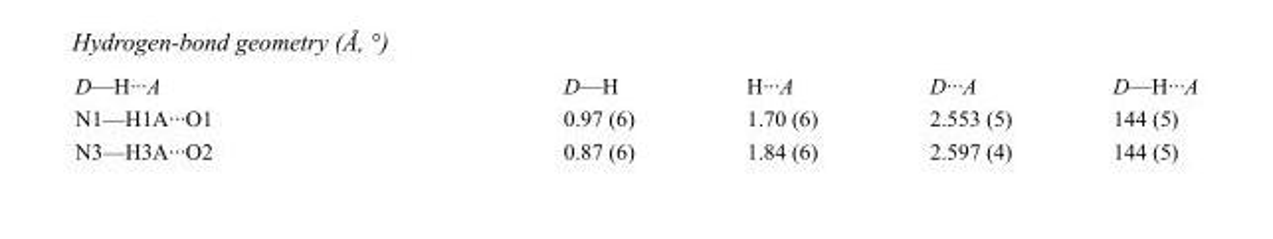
<table><tbody><tr><td>D—H···A</td><td>D—H</td><td>H···A</td><td>D···A</td><td>D—H···A</td></tr><tr><td>N1—H1A···O1</td><td>0.97 (6)</td><td>1.70 (6)</td><td>2.553 (5)</td><td>144 (5)</td></tr><tr><td>N3—H3A···O2</td><td>0.87 (6)</td><td>1.84 (6)</td><td>2.597 (4)</td><td>144 (5)</td></tr></tbody></table>